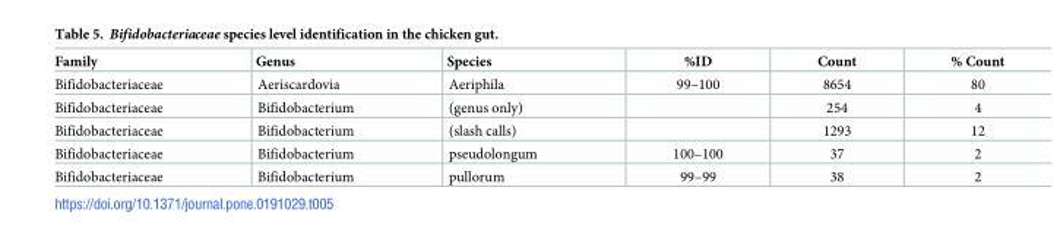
<table><thead><tr><td>Family</td><td>Genus</td><td>Species</td><td>%ID</td><td>Count</td><td>% Count</td></tr></thead><tbody><tr><td>Bifidobacteriaceae</td><td>Aeriscardovia</td><td>Aeriphila</td><td>99–100</td><td>8654</td><td>80</td></tr><tr><td>Bifidobacteriaceae</td><td>Bifidobacterium</td><td>(genus only)</td><td></td><td>254</td><td>4</td></tr><tr><td>Bifidobacteriaceae</td><td>Bifidobacterium</td><td>(slash calls)</td><td></td><td>1293</td><td>12</td></tr><tr><td>Bifidobacteriaceae</td><td>Bifidobacterium</td><td>pseudolongum</td><td>100–100</td><td>37</td><td>2</td></tr><tr><td>Bifidobacteriaceae</td><td>Bifidobacterium</td><td>pullorum</td><td>99–99</td><td>38</td><td>2</td></tr></tbody></table>